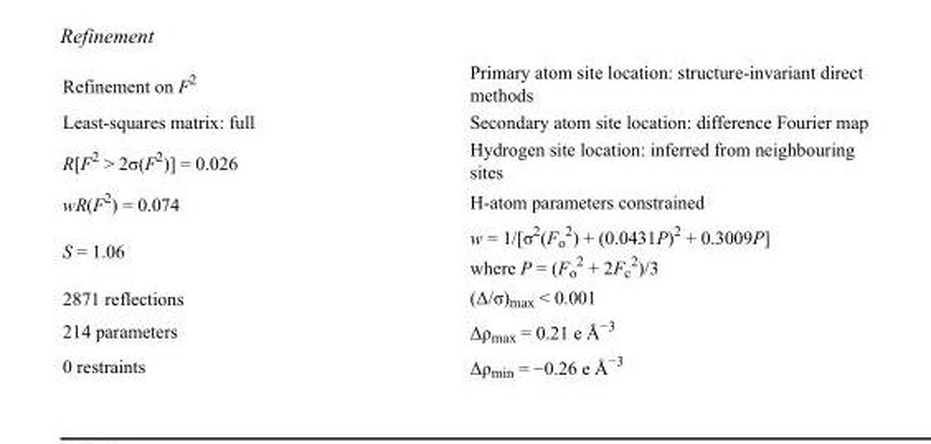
<table><tbody><tr><td>Refinement on F<sup>2</sup></td><td>Primary atom site location: structure-invariant direct methods</td></tr><tr><td>Least-squares matrix: full</td><td>Secondary atom site location: difference Fourier map</td></tr><tr><td>R[F<sup>2</sup> &gt; 2σ(F<sup>2</sup>)] = 0.026</td><td>Hydrogen site location: inferred from neighbouring sites</td></tr><tr><td>wR(F<sup>2</sup>) = 0.074</td><td>H-atom parameters constrained</td></tr><tr><td>S = 1.06</td><td>w = 1/[σ<sup>2</sup>(F<sub>o</sub> <sup>2</sup>) + (0.0431P)<sup>2</sup> + 0.3009P] where P = (F<sub>o</sub> <sup>2</sup> + 2F<sub>c</sub> <sup>2</sup>)/3</td></tr><tr><td>2871 reflections</td><td>(Δ/σ)<sub>max</sub> &lt; 0.001</td></tr><tr><td>214 parameters</td><td>Δρ<sub>max</sub> = 0.21 e Å<sup>−3</sup></td></tr><tr><td>0 restraints</td><td>Δρ<sub>min</sub> = −0.26 e Å<sup>−3</sup></td></tr></tbody></table>